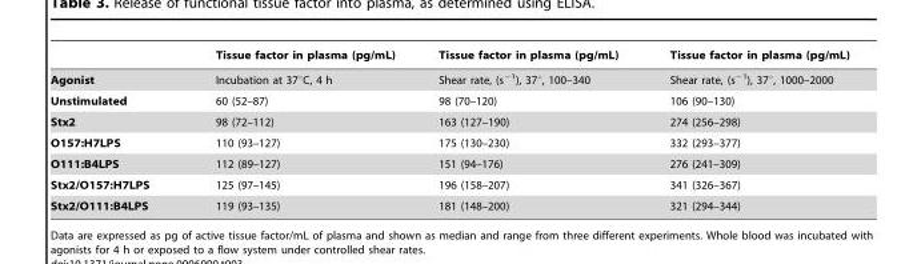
<table><thead><tr><td></td><td>Tissue factor in plasma (pg/mL)</td><td>Tissue factor in plasma (pg/mL)</td><td>Tissue factor in plasma (pg/mL)</td></tr></thead><tbody><tr><td>Agonist</td><td>Incubation at 37°C, 4 h</td><td>Shear rate, (s<sup>−1</sup>), 37°, 100–340</td><td>Shear rate, (s<sup>−1</sup>), 37°, 1000–2000</td></tr><tr><td>Unstimulated</td><td>60 (52–87)</td><td>98 (70–120)</td><td>106 (90–130)</td></tr><tr><td>Stx2</td><td>98 (72–112)</td><td>163 (127–190)</td><td>274 (256–298)</td></tr><tr><td>O157:H7LPS</td><td>110 (93–127)</td><td>175 (130–230)</td><td>332 (293–377)</td></tr><tr><td>O111:B4LPS</td><td>112 (89–127)</td><td>151 (94–176)</td><td>276 (241–309)</td></tr><tr><td>Stx2/O157:H7LPS</td><td>125 (97–145)</td><td>196 (158–207)</td><td>341 (326–367)</td></tr><tr><td>Stx2/O111:B4LPS</td><td>119 (93–135)</td><td>181 (148–200)</td><td>321 (294–344)</td></tr></tbody></table>